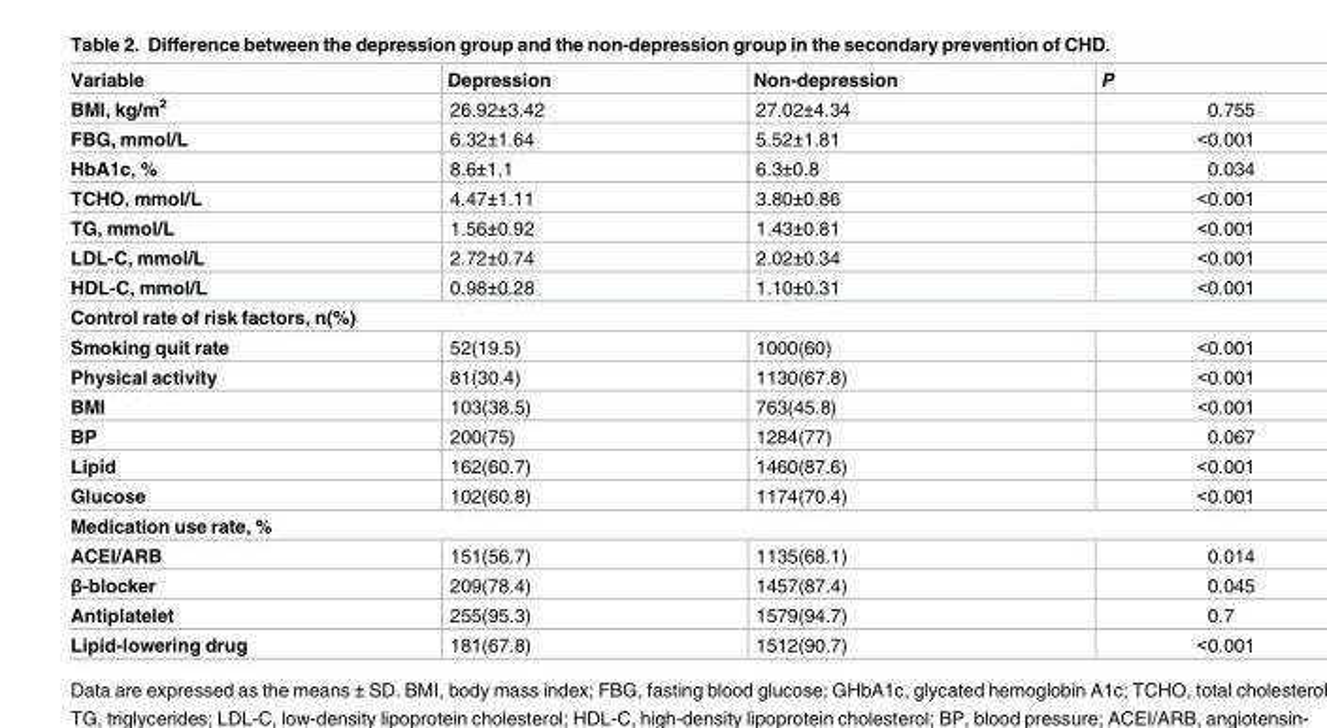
<table><thead><tr><td>Variable</td><td>Depression</td><td>Non-depression</td><td>P</td></tr></thead><tbody><tr><td>BMI, kg/m<sup>2</sup></td><td>26.92±3.42</td><td>27.02±4.34</td><td>0.755</td></tr><tr><td>FBG, mmol/L</td><td>6.32±1.64</td><td>5.52±1.81</td><td>&lt;0.001</td></tr><tr><td>HbA1c, %</td><td>8.6±1.1</td><td>6.3±0.8</td><td>0.034</td></tr><tr><td>TCHO, mmol/L</td><td>4.47±1.11</td><td>3.80±0.86</td><td>&lt;0.001</td></tr><tr><td>TG, mmol/L</td><td>1.56±0.92</td><td>1.43±0.81</td><td>&lt;0.001</td></tr><tr><td>LDL-C, mmol/L</td><td>2.72±0.74</td><td>2.02±0.34</td><td>&lt;0.001</td></tr><tr><td>HDL-C, mmol/L</td><td>0.98±0.28</td><td>1.10±0.31</td><td>&lt;0.001</td></tr><tr><td colspan="4">Control rate of risk factors, n(%)</td></tr><tr><td>Smoking quit rate</td><td>52(19.5)</td><td>1000(60)</td><td>&lt;0.001</td></tr><tr><td>Physical activity</td><td>81(30.4)</td><td>1130(67.8)</td><td>&lt;0.001</td></tr><tr><td>BMI</td><td>103(38.5)</td><td>763(45.8)</td><td>&lt;0.001</td></tr><tr><td>BP</td><td>200(75)</td><td>1284(77)</td><td>0.067</td></tr><tr><td>Lipid</td><td>162(60.7)</td><td>1460(87.6)</td><td>&lt;0.001</td></tr><tr><td>Glucose</td><td>102(60.8)</td><td>1174(70.4)</td><td>&lt;0.001</td></tr><tr><td colspan="4">Medication use rate, %</td></tr><tr><td>ACEI/ARB</td><td>151(56.7)</td><td>1135(68.1)</td><td>0.014</td></tr><tr><td>β-blocker</td><td>209(78.4)</td><td>1457(87.4)</td><td>0.045</td></tr><tr><td>Antiplatelet</td><td>255(95.3)</td><td>1579(94.7)</td><td>0.7</td></tr><tr><td>Lipid-lowering drug</td><td>181(67.8)</td><td>1512(90.7)</td><td>&lt;0.001</td></tr></tbody></table>